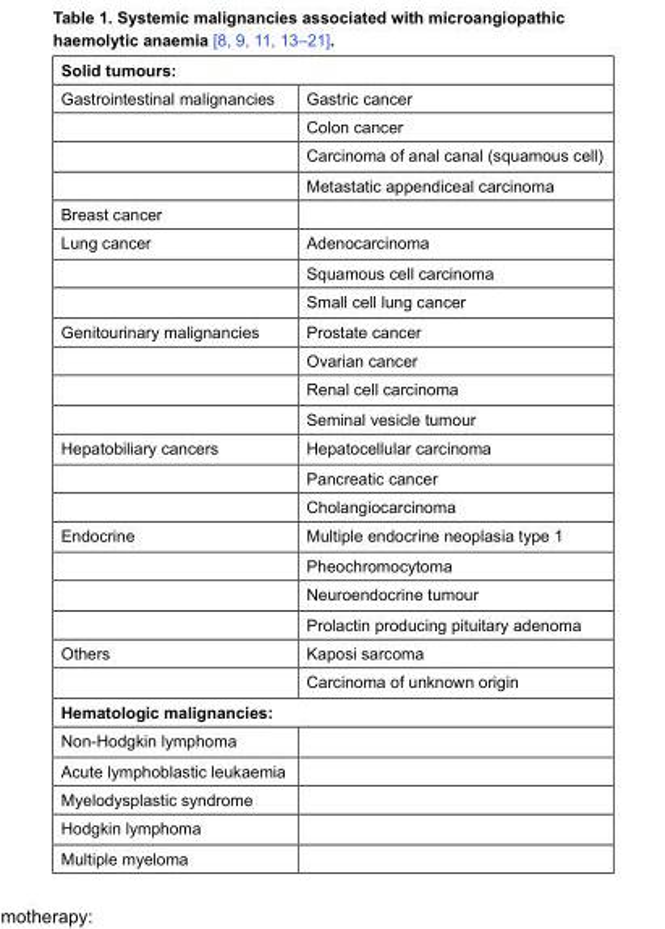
<table><thead><tr><td colspan="2">Solid tumours:</td></tr><tr><td>Gastrointestinal malignancies</td><td>Gastric cancer</td></tr></thead><tbody><tr><td></td><td>Colon cancer</td></tr><tr><td></td><td>Carcinoma of anal canal (squamous cell)</td></tr><tr><td></td><td>Metastatic appendiceal carcinoma</td></tr><tr><td colspan="2">Breast cancer</td></tr><tr><td rowspan="3">Lung cancer</td><td>Adenocarcinoma</td></tr><tr><td>Squamous cell carcinoma</td></tr><tr><td>Small cell lung cancer</td></tr><tr><td rowspan="4">Genitourinary malignancies</td><td>Prostate cancer</td></tr><tr><td>Ovarian cancer</td></tr><tr><td>Renal cell carcinoma</td></tr><tr><td>Seminal vesicle tumour</td></tr><tr><td rowspan="3">Hepatobiliary cancers</td><td>Hepatocellular carcinoma</td></tr><tr><td>Pancreatic cancer</td></tr><tr><td>Cholangiocarcinoma</td></tr><tr><td rowspan="4">Endocrine</td><td>Multiple endocrine neoplasia type 1</td></tr><tr><td>Pheochromocytoma</td></tr><tr><td>Neuroendocrine tumour</td></tr><tr><td>Prolactin producing pituitary adenoma</td></tr><tr><td rowspan="2">Others</td><td>Kaposi sarcoma</td></tr><tr><td>Carcinoma of unknown origin</td></tr><tr><td colspan="2">Hematologic malignancies:</td></tr><tr><td colspan="2">Non-Hodgkin lymphoma</td></tr><tr><td colspan="2">Acute lymphoblastic leukaemia</td></tr><tr><td colspan="2">Myelodysplastic syndrome</td></tr><tr><td colspan="2">Hodgkin lymphoma</td></tr><tr><td>Multiple myeloma</td><td></td></tr></tbody></table>